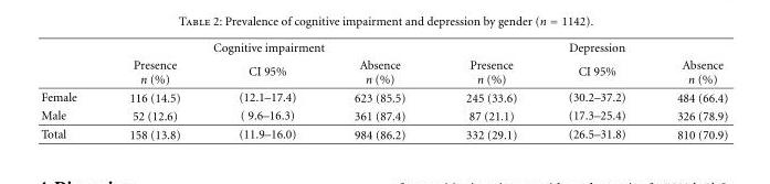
<table><thead><tr><td rowspan="2"></td><td colspan="3">Cognitive impairment</td><td colspan="3">Depression</td></tr><tr><td>Presence n (%)</td><td>CI 95%</td><td>Absence n (%)</td><td>Presence n (%)</td><td>CI 95%</td><td>Absence n (%)</td></tr></thead><tbody><tr><td>Female</td><td>116 (14.5)</td><td>(12.1–17.4)</td><td>623 (85.5)</td><td>245 (33.6)</td><td>(30.2–37.2)</td><td>484 (66.4)</td></tr><tr><td>Male</td><td>52 (12.6)</td><td>( 9.6–16.3)</td><td>361 (87.4)</td><td>87 (21.1)</td><td>(17.3–25.4)</td><td>326 (78.9)</td></tr><tr><td>Total</td><td>158 (13.8)</td><td>(11.9–16.0)</td><td>984 (86.2)</td><td>332 (29.1)</td><td>(26.5–31.8)</td><td>810 (70.9)</td></tr></tbody></table>